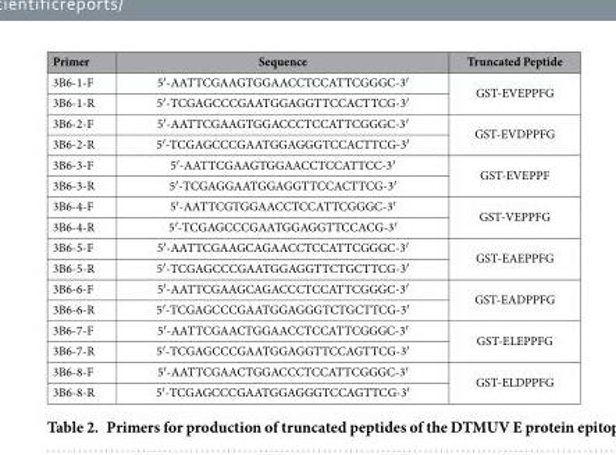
<table><thead><tr><td>Primer</td><td>Sequence</td><td>Truncated Peptide</td></tr></thead><tbody><tr><td>3B6-1-F</td><td>5′ -AATTCGAAGTGGAACCTCCATTCGGGC-3′</td><td rowspan="2">GST-EVEPPFG</td></tr><tr><td>3B6-1-R</td><td>5′ -TCGAGCCCGAATGGAGGTTCCACTTCG-3′</td></tr><tr><td>3B6-2-F</td><td>5′ -AATTCGAAGTGGACCCTCCATTCGGGC-3′</td><td rowspan="2">GST-EVDPPFG</td></tr><tr><td>3B6-2-R</td><td>5′ -TCGAGCCCGAATGGAGGGTCCACTTCG-3′</td></tr><tr><td>3B6-3-F</td><td>5′ -AATTCGAAGTGGAACCTCCATTCC-3′</td><td rowspan="2">GST-EVEPPF</td></tr><tr><td>3B6-3-R</td><td>5′ -TCGAGGAATGGAGGTTCCACTTCG-3′</td></tr><tr><td>3B6-4-F</td><td>5′ -AATTCGTGGAACCTCCATTCGGGC-3′</td><td rowspan="2">GST-VEPPFG</td></tr><tr><td>3B6-4-R</td><td>5′ -TCGAGCCCGAATGGAGGTTCCACG-3′</td></tr><tr><td>3B6-5-F</td><td>5′ -AATTCGAAGCAGAACCTCCATTCGGGC-3′</td><td rowspan="2">GST-EAEPPFG</td></tr><tr><td>3B6-5-R</td><td>5′ -TCGAGCCCGAATGGAGGTTCTGCTTCG-3′</td></tr><tr><td>3B6-6-F</td><td>5′ -AATTCGAAGCAGACCCTCCATTCGGGC-3′</td><td rowspan="2">GST-EADPPFG</td></tr><tr><td>3B6-6-R</td><td>5′ -TCGAGCCCGAATGGAGGGTCTGCTTCG-3′</td></tr><tr><td>3B6-7-F</td><td>5′ -AATTCGAACTGGAACCTCCATTCGGGC-3′</td><td rowspan="2">GST-ELEPPFG</td></tr><tr><td>3B6-7-R</td><td>5′ -TCGAGCCCGAATGGAGGTTCCAGTTCG-3′</td></tr><tr><td>3B6-8-F</td><td>5′ -AATTCGAACTGGACCCTCCATTCGGGC-3′</td><td rowspan="2">GST-ELDPPFG</td></tr><tr><td>3B6-8-R</td><td>5′ -TCGAGCCCGAATGGAGGGTCCAGTTCG-3′</td></tr></tbody></table>